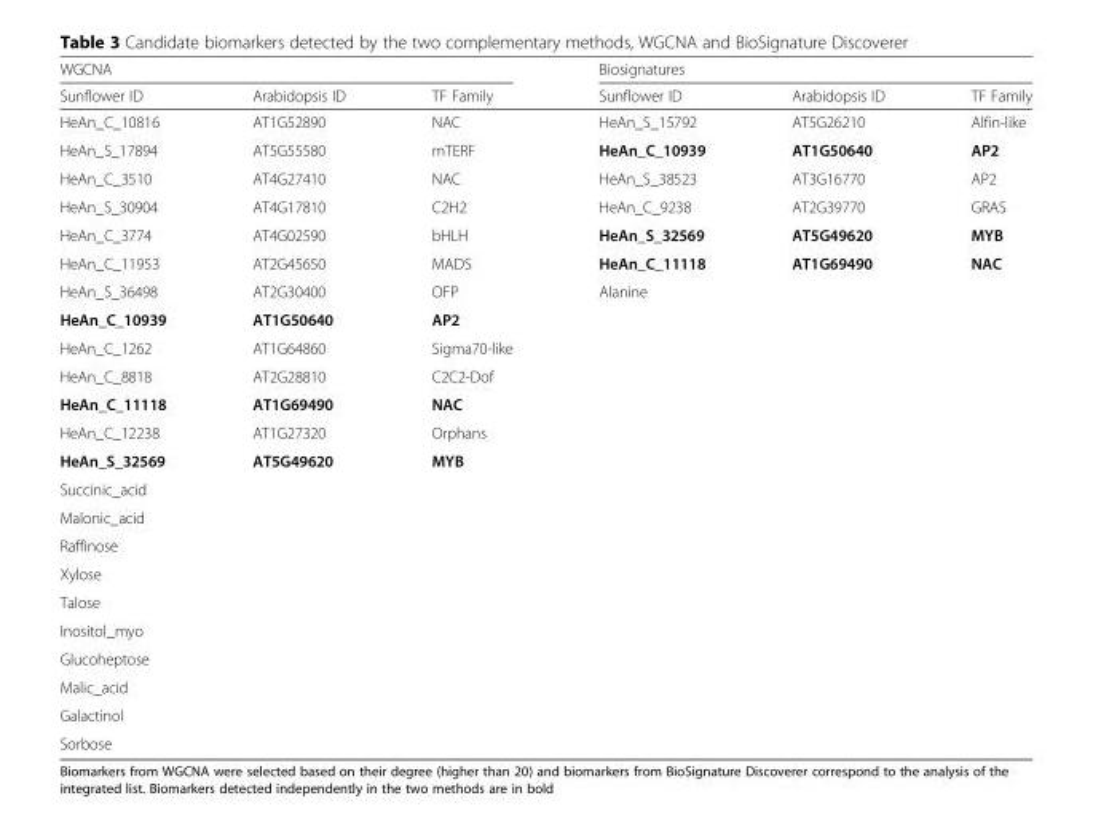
<table><thead><tr><td colspan="3">WGCNA</td><td colspan="3">Biosignatures</td></tr><tr><td>Sunflower ID</td><td>Arabidopsis ID</td><td>TF Family</td><td>Sunflower ID</td><td>Arabidopsis ID</td><td>TF Family</td></tr></thead><tbody><tr><td>HeAn_C_10816</td><td>AT1G52890</td><td>NAC</td><td>HeAn_S_15792</td><td>AT5G26210</td><td>Alfin-like</td></tr><tr><td>HeAn_S_17894</td><td>AT5G55580</td><td>mTERF</td><td>HeAn_C_10939</td><td>AT1G50640</td><td>AP2</td></tr><tr><td>HeAn_C_3510</td><td>AT4G27410</td><td>NAC</td><td>HeAn_S_38523</td><td>AT3G16770</td><td>AP2</td></tr><tr><td>HeAn_S_30904</td><td>AT4G17810</td><td>C2H2</td><td>HeAn_C_9238</td><td>AT2G39770</td><td>GRAS</td></tr><tr><td>HeAn_C_3774</td><td>AT4G02590</td><td>bHLH</td><td>HeAn_S_32569</td><td>AT5G49620</td><td>MYB</td></tr><tr><td>HeAn_C_11953</td><td>AT2G45650</td><td>MADS</td><td>HeAn_C_11118</td><td>AT1G69490</td><td>NAC</td></tr><tr><td>HeAn_S_36498</td><td>AT2G30400</td><td>OFP</td><td>Alanine</td><td></td><td></td></tr><tr><td>HeAn_C_10939</td><td>AT1G50640</td><td>AP2</td><td></td><td></td><td></td></tr><tr><td>HeAn_C_1262</td><td>AT1G64860</td><td>Sigma70-like</td><td></td><td></td><td></td></tr><tr><td>HeAn_C_8818</td><td>AT2G28810</td><td>C2C2-Dof</td><td></td><td></td><td></td></tr><tr><td>HeAn_C_11118</td><td>AT1G69490</td><td>NAC</td><td></td><td></td><td></td></tr><tr><td>HeAn_C_12238</td><td>AT1G27320</td><td>Orphans</td><td></td><td></td><td></td></tr><tr><td>HeAn_S_32569</td><td>AT5G49620</td><td>MYB</td><td></td><td></td><td></td></tr><tr><td colspan="6">Succinic_acid</td></tr><tr><td colspan="6">Malonic_acid</td></tr><tr><td colspan="6">Raffinose</td></tr><tr><td colspan="6">Xylose</td></tr><tr><td colspan="6">Talose</td></tr><tr><td colspan="6">Inositol_myo</td></tr><tr><td colspan="6">Glucoheptose</td></tr><tr><td colspan="6">Malic_acid</td></tr><tr><td colspan="6">Galactinol</td></tr><tr><td>Sorbose</td><td></td><td></td><td></td><td></td><td></td></tr></tbody></table>